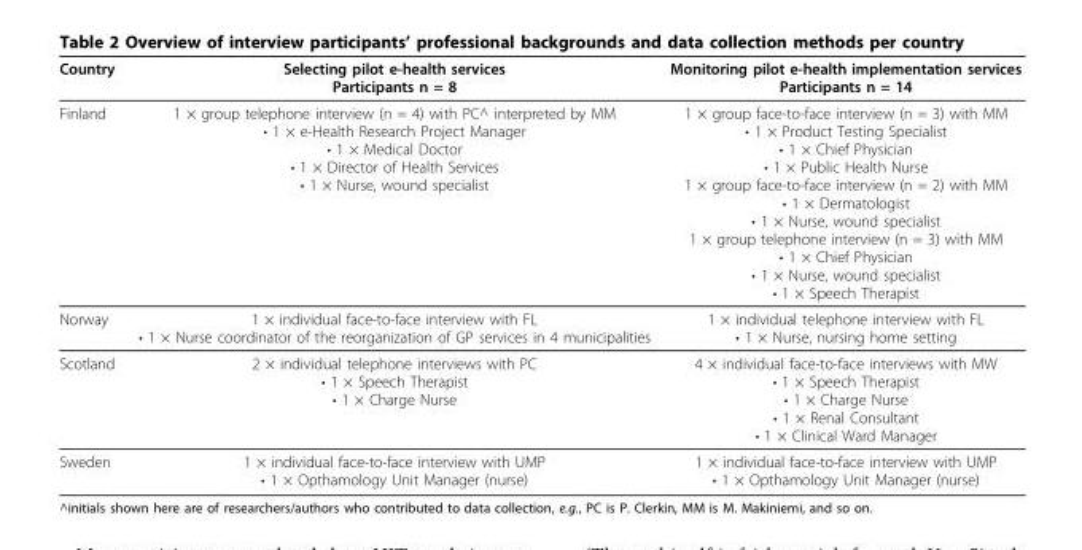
<table><thead><tr><td>Country</td><td>Selecting pilot e-health services Participants n = 8</td><td>Monitoring pilot e-health implementation services Participants n = 14</td></tr></thead><tbody><tr><td>Finland</td><td>1 × group telephone interview (n = 4) with PC^ interpreted by MM • 1 × e-Health Research Project Manager • 1 × Medical Doctor • 1 × Director of Health Services • 1 × Nurse, wound specialist</td><td>1 × group face-to-face interview (n = 3) with MM • 1 × Product Testing Specialist • 1 × Chief Physician • 1 × Public Health Nurse 1 × group face-to-face interview (n = 2) with MM • 1 × Dermatologist • 1 × Nurse, wound specialist 1 × group telephone interview (n = 3) with MM • 1 × Chief Physician • 1 × Nurse, wound specialist • 1 × Speech Therapist</td></tr><tr><td>Norway</td><td>1 × individual face-to-face interview with FL • 1 × Nurse coordinator of the reorganization of GP services in 4 municipalities</td><td>1 × individual telephone interview with FL • 1 × Nurse, nursing home setting</td></tr><tr><td>Scotland</td><td>2 × individual telephone interviews with PC • 1 × Speech Therapist • 1 × Charge Nurse</td><td>4 × individual face-to-face interviews with MW • 1 × Speech Therapist • 1 × Charge Nurse • 1 × Renal Consultant • 1 × Clinical Ward Manager</td></tr><tr><td>Sweden</td><td>1 × individual face-to-face interview with UMP • 1 × Opthamology Unit Manager (nurse)</td><td>1 × individual face-to-face interview with UMP • 1 × Opthamology Unit Manager (nurse)</td></tr></tbody></table>